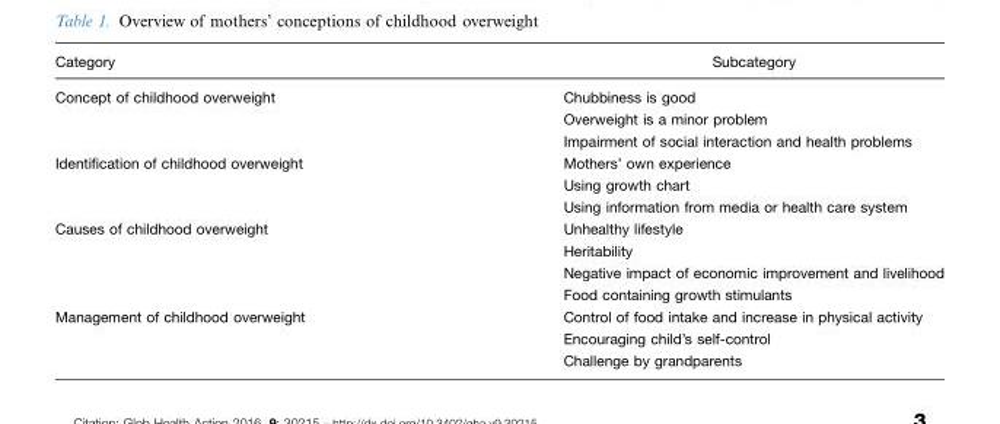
<table><thead><tr><td>Category</td><td>Subcategory</td></tr></thead><tbody><tr><td rowspan="3">Concept of childhood overweight</td><td>Chubbiness is good</td></tr><tr><td>Overweight is a minor problem</td></tr><tr><td>Impairment of social interaction and health problems</td></tr><tr><td rowspan="3">Identification of childhood overweight</td><td>Mothers’ own experience</td></tr><tr><td>Using growth chart</td></tr><tr><td>Using information from media or health care system</td></tr><tr><td rowspan="4">Causes of childhood overweight</td><td>Unhealthy lifestyle</td></tr><tr><td>Heritability</td></tr><tr><td>Negative impact of economic improvement and livelihood</td></tr><tr><td>Food containing growth stimulants</td></tr><tr><td rowspan="3">Management of childhood overweight</td><td>Control of food intake and increase in physical activity</td></tr><tr><td>Encouraging child’s self-control</td></tr><tr><td>Challenge by grandparents</td></tr></tbody></table>